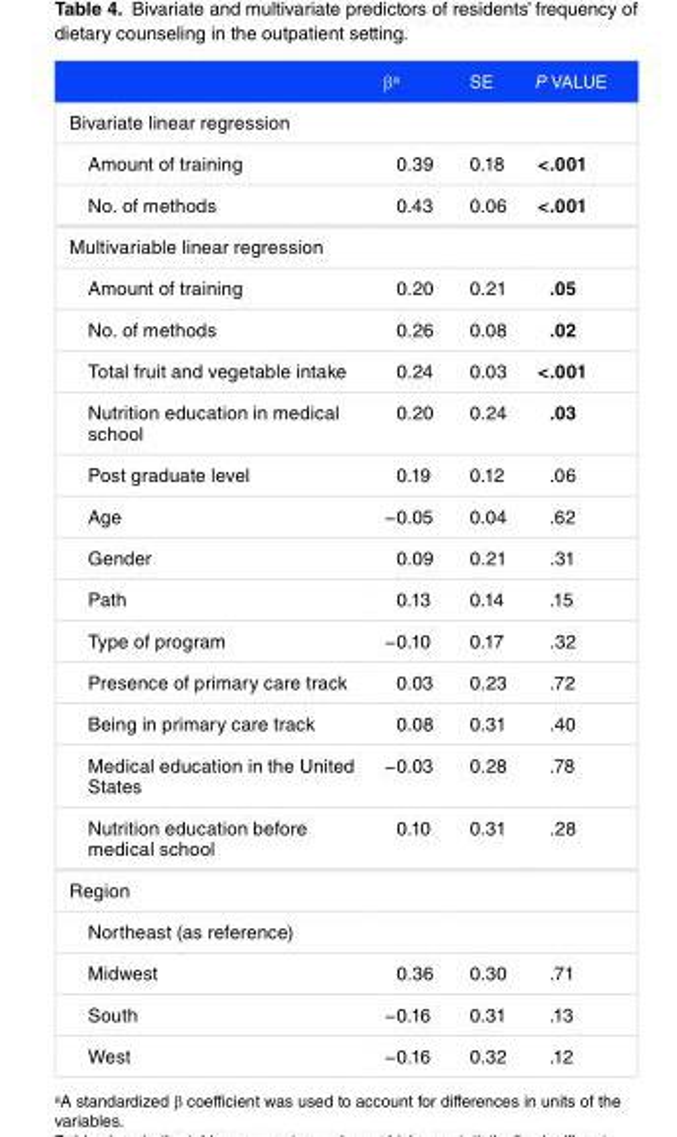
<table><thead><tr><td></td><td>β<sup>a</sup></td><td>SE</td><td>P vAlUE</td></tr></thead><tbody><tr><td colspan="4">Bivariate linear regression</td></tr><tr><td>Amount of training</td><td>0.39</td><td>0.18</td><td>&lt;.001</td></tr><tr><td>No. of methods</td><td>0.43</td><td>0.06</td><td>&lt;.001</td></tr><tr><td colspan="4">Multivariable linear regression</td></tr><tr><td>Amount of training</td><td>0.20</td><td>0.21</td><td>.05</td></tr><tr><td>No. of methods</td><td>0.26</td><td>0.08</td><td>.02</td></tr><tr><td>Total fruit and vegetable intake</td><td>0.24</td><td>0.03</td><td>&lt;.001</td></tr><tr><td>Nutrition education in medical school</td><td>0.20</td><td>0.24</td><td>.03</td></tr><tr><td>Post graduate level</td><td>0.19</td><td>0.12</td><td>.06</td></tr><tr><td>Age</td><td>−0.05</td><td>0.04</td><td>.62</td></tr><tr><td>Gender</td><td>0.09</td><td>0.21</td><td>.31</td></tr><tr><td>Path</td><td>0.13</td><td>0.14</td><td>.15</td></tr><tr><td>Type of program</td><td>−0.10</td><td>0.17</td><td>.32</td></tr><tr><td>Presence of primary care track</td><td>0.03</td><td>0.23</td><td>.72</td></tr><tr><td>Being in primary care track</td><td>0.08</td><td>0.31</td><td>.40</td></tr><tr><td>Medical education in the United States</td><td>−0.03</td><td>0.28</td><td>.78</td></tr><tr><td>Nutrition education before medical school</td><td>0.10</td><td>0.31</td><td>.28</td></tr><tr><td colspan="4">Region</td></tr><tr><td colspan="4">Northeast (as reference)</td></tr><tr><td>Midwest</td><td>0.36</td><td>0.30</td><td>.71</td></tr><tr><td>South</td><td>−0.16</td><td>0.31</td><td>.13</td></tr><tr><td>West</td><td>−0.16</td><td>0.32</td><td>.12</td></tr></tbody></table>